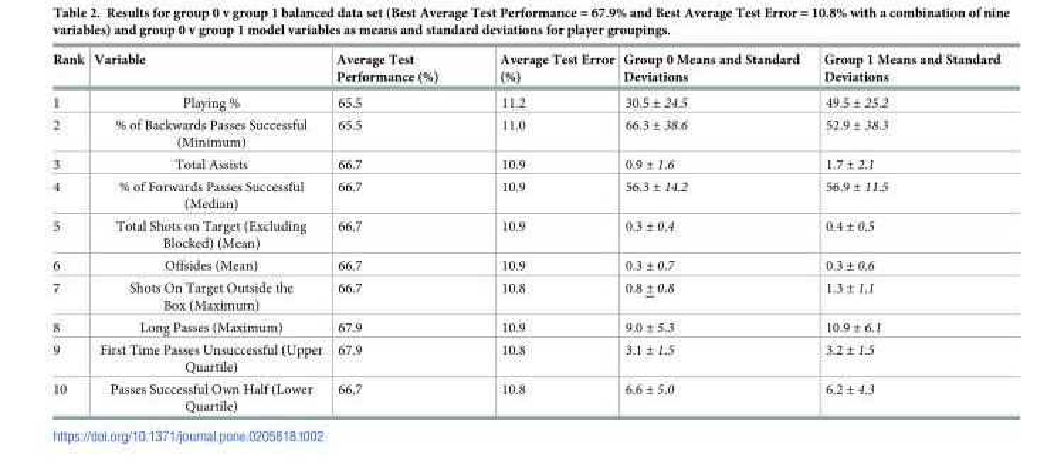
<table><thead><tr><td>Rank</td><td>Variable</td><td>Average Test Performance (%)</td><td>Average Test Error (%)</td><td>Group 0 Means and Standard Deviations</td><td>Group 1 Means and Standard Deviations</td></tr></thead><tbody><tr><td>1</td><td>Playing %</td><td>65.5</td><td>11.2</td><td>30.5 ± 24.5</td><td>49.5 ± 25.2</td></tr><tr><td>2</td><td>% of Backwards Passes Successful (Minimum)</td><td>65.5</td><td>11.0</td><td>66.3 ± 38.6</td><td>52.9 ± 38.3</td></tr><tr><td>3</td><td>Total Assists</td><td>66.7</td><td>10.9</td><td>0.9 ± 1.6</td><td>1.7 ± 2.1</td></tr><tr><td>4</td><td>% of Forwards Passes Successful (Median)</td><td>66.7</td><td>10.9</td><td>56.3 ± 14.2</td><td>56.9 ± 11.5</td></tr><tr><td>5</td><td>Total Shots on Target (Excluding Blocked) (Mean)</td><td>66.7</td><td>10.9</td><td>0.3 ± 0.4</td><td>0.4 ± 0.5</td></tr><tr><td>6</td><td>Offsides (Mean)</td><td>66.7</td><td>10.9</td><td>0.3 ± 0.7</td><td>0.3 ± 0.6</td></tr><tr><td>7</td><td>Shots On Target Outside the Box (Maximum)</td><td>66.7</td><td>10.8</td><td>0.8 ± 0.8</td><td>1.3 ± 1.1</td></tr><tr><td>8</td><td>Long Passes (Maximum)</td><td>67.9</td><td>10.9</td><td>9.0 ± 5.3</td><td>10.9 ± 6.1</td></tr><tr><td>9</td><td>First Time Passes Unsuccessful (Upper Quartile)</td><td>67.9</td><td>10.8</td><td>3.1 ± 1.5</td><td>3.2 ± 1.5</td></tr><tr><td>10</td><td>Passes Successful Own Half (Lower Quartile)</td><td>66.7</td><td>10.8</td><td>6.6 ± 5.0</td><td>6.2 ± 4.3</td></tr></tbody></table>